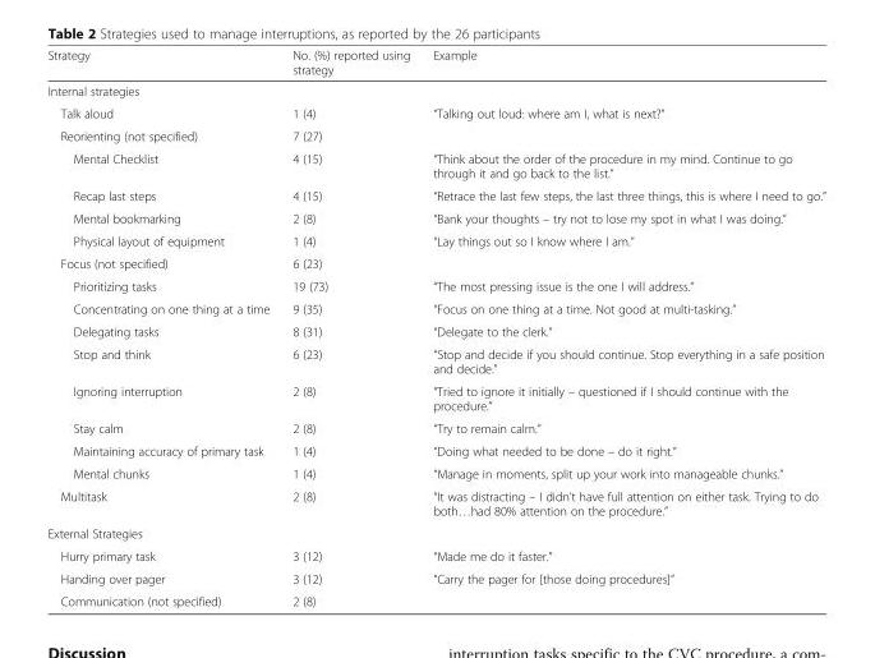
<table><thead><tr><td>Strategy</td><td>No. (%) reported using strategy</td><td>Example</td></tr></thead><tbody><tr><td colspan="3">Internal strategies</td></tr><tr><td>Talk aloud</td><td>1 (4)</td><td>“Talking out loud: where am I, what is next?”</td></tr><tr><td>Reorienting (not specified)</td><td>7 (27)</td><td></td></tr><tr><td>Mental Checklist</td><td>4 (15)</td><td>“Think about the order of the procedure in my mind. Continue to go through it and go back to the list.”</td></tr><tr><td>Recap last steps</td><td>4 (15)</td><td>“Retrace the last few steps, the last three things, this is where I need to go.”</td></tr><tr><td>Mental bookmarking</td><td>2 (8)</td><td>“Bank your thoughts – try not to lose my spot in what I was doing.”</td></tr><tr><td>Physical layout of equipment</td><td>1 (4)</td><td>“Lay things out so I know where I am.”</td></tr><tr><td>Focus (not specified)</td><td>6 (23)</td><td></td></tr><tr><td>Prioritizing tasks</td><td>19 (73)</td><td>“The most pressing issue is the one I will address.”</td></tr><tr><td>Concentrating on one thing at a time</td><td>9 (35)</td><td>“Focus on one thing at a time. Not good at multi-tasking.”</td></tr><tr><td>Delegating tasks</td><td>8 (31)</td><td>“Delegate to the clerk.”</td></tr><tr><td>Stop and think</td><td>6 (23)</td><td>“Stop and decide if you should continue. Stop everything in a safe position and decide.”</td></tr><tr><td>Ignoring interruption</td><td>2 (8)</td><td>“Tried to ignore it initially – questioned if I should continue with the procedure.”</td></tr><tr><td>Stay calm</td><td>2 (8)</td><td>“Try to remain calm.”</td></tr><tr><td>Maintaining accuracy of primary task</td><td>1 (4)</td><td>“Doing what needed to be done – do it right.”</td></tr><tr><td>Mental chunks</td><td>1 (4)</td><td>“Manage in moments, split up your work into manageable chunks.”</td></tr><tr><td>Multitask</td><td>2 (8)</td><td>“It was distracting – I didn’t have full attention on either task. Trying to do both…had 80% attention on the procedure.”</td></tr><tr><td colspan="3">External Strategies</td></tr><tr><td>Hurry primary task</td><td>3 (12)</td><td>“Made me do it faster.”</td></tr><tr><td>Handing over pager</td><td>3 (12)</td><td>“Carry the pager for [those doing procedures]”</td></tr><tr><td>Communication (not specified)</td><td>2 (8)</td><td></td></tr></tbody></table>